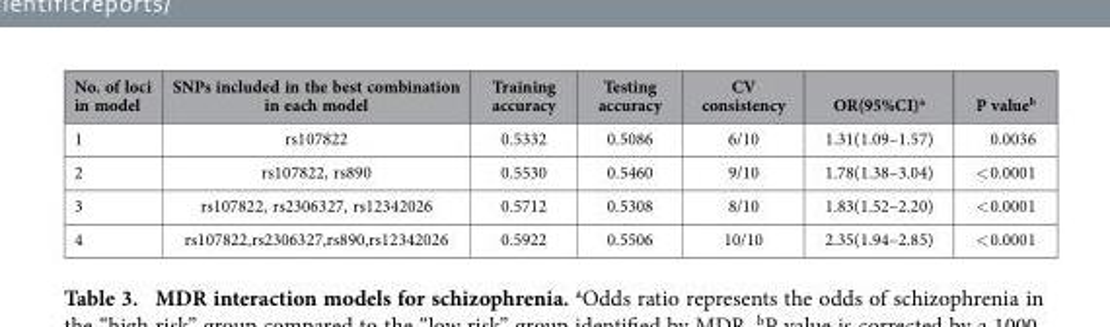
<table><thead><tr><td>No. of loci in model</td><td>SNPs included in the best combination in each model</td><td>Training accuracy</td><td>Testing accuracy</td><td>CV consistency</td><td>OR(95%CI)<sup>a</sup></td><td>P value<sup>b</sup></td></tr></thead><tbody><tr><td>1</td><td>rs107822</td><td>0.5332</td><td>0.5086</td><td>6/10</td><td>1.31(1.09–1.57)</td><td>0.0036</td></tr><tr><td>2</td><td>rs107822, rs890</td><td>0.5530</td><td>0.5460</td><td>9/10</td><td>1.78(1.38–3.04)</td><td>&lt; 0.0001</td></tr><tr><td>3</td><td>rs107822, rs2306327, rs12342026</td><td>0.5712</td><td>0.5308</td><td>8/10</td><td>1.83(1.52–2.20)</td><td>&lt; 0.0001</td></tr><tr><td>4</td><td>rs107822,rs2306327,rs890,rs12342026</td><td>0.5922</td><td>0.5506</td><td>10/10</td><td>2.35(1.94–2.85)</td><td>&lt; 0.0001</td></tr></tbody></table>